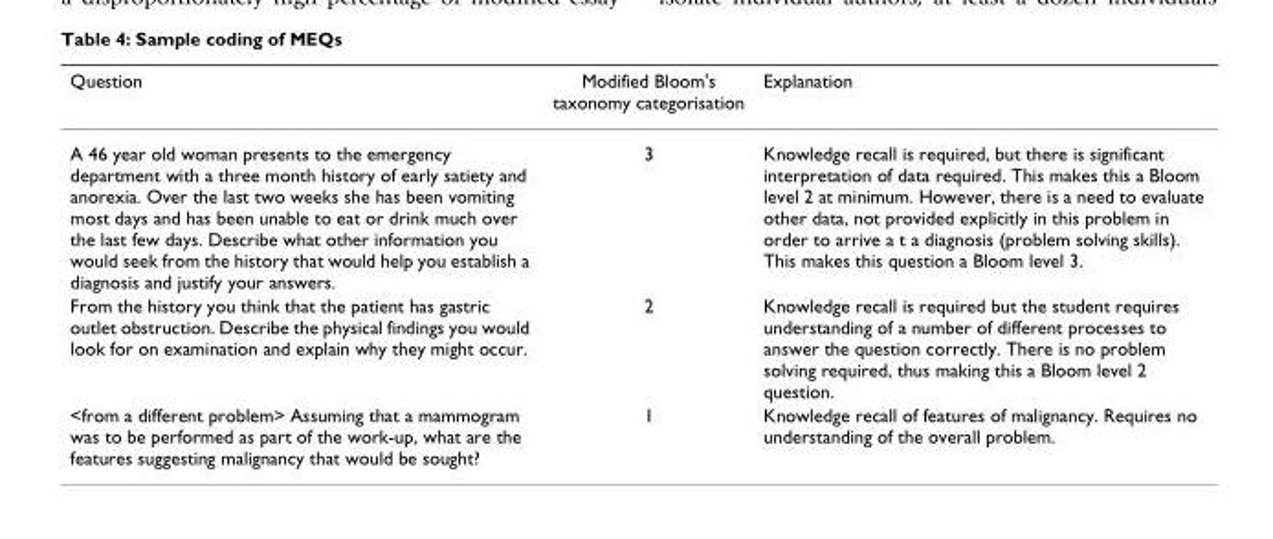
<table><thead><tr><td>Question</td><td>Modified Bloom&#x27;s taxonomy categorisation</td><td>Explanation</td></tr></thead><tbody><tr><td>A 46 year old woman presents to the emergency department with a three month history of early satiety and anorexia. Over the last two weeks she has been vomiting most days and has been unable to eat or drink much over the last few days. Describe what other information you would seek from the history that would help you establish a diagnosis and justify your answers.</td><td>3</td><td>Knowledge recall is required, but there is significant interpretation of data required. This makes this a Bloom level 2 at minimum. However, there is a need to evaluate other data, not provided explicitly in this problem in order to arrive a t a diagnosis (problem solving skills). This makes this question a Bloom level 3.</td></tr><tr><td>From the history you think that the patient has gastric outlet obstruction. Describe the physical findings you would look for on examination and explain why they might occur.</td><td>2</td><td>Knowledge recall is required but the student requires understanding of a number of different processes to answer the question correctly. There is no problem solving required, thus making this a Bloom level 2 question.</td></tr><tr><td>&lt;from a different problem&gt; Assuming that a mammogram was to be performed as part of the work-up, what are the features suggesting malignancy that would be sought?</td><td>1</td><td>Knowledge recall of features of malignancy. Requires no understanding of the overall problem.</td></tr></tbody></table>